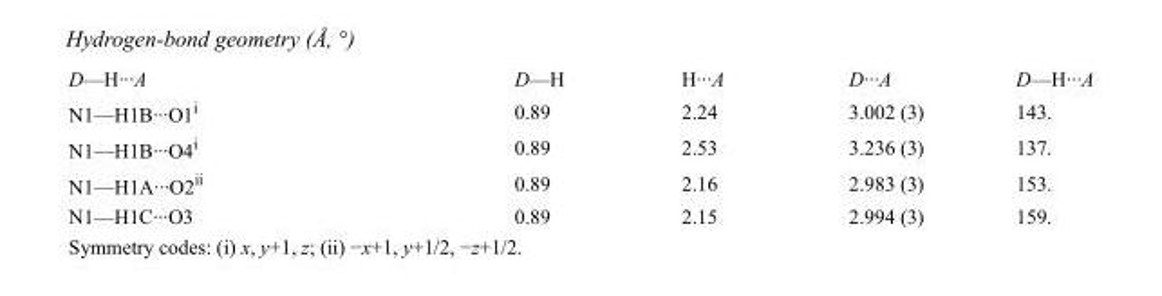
<table><tbody><tr><td>D—H···A</td><td>D—H</td><td>H···A</td><td>D···A</td><td>D—H···A</td></tr><tr><td>N1—H1B···O1<sup>i</sup></td><td>0.89</td><td>2.24</td><td>3.002 (3)</td><td>143.</td></tr><tr><td>N1—H1B···O4<sup>i</sup></td><td>0.89</td><td>2.53</td><td>3.236 (3)</td><td>137.</td></tr><tr><td>N1—H1A···O2<sup>ii</sup></td><td>0.89</td><td>2.16</td><td>2.983 (3)</td><td>153.</td></tr><tr><td>N1—H1C···O3</td><td>0.89</td><td>2.15</td><td>2.994 (3)</td><td>159.</td></tr></tbody></table>